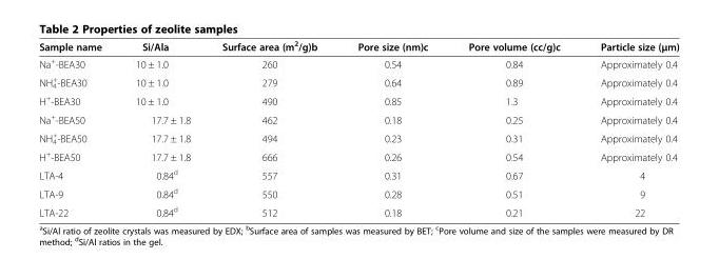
<table><thead><tr><td>Sample name</td><td>Si/Ala</td><td>Surface area (m<sup>2</sup>/g)b</td><td>Pore size (nm)с</td><td>Pore volume (cc/g)c</td><td>Particle size (μm)</td></tr></thead><tbody><tr><td>Na<sup>+</sup>-BEA30</td><td>10 ± 1.0</td><td>260</td><td>0.54</td><td>0.84</td><td>Approximately 0.4</td></tr><tr><td>NH<sub>4</sub> <sup>+</sup>-BEA30</td><td>10 ± 1.0</td><td>279</td><td>0.64</td><td>0.89</td><td>Approximately 0.4</td></tr><tr><td>H<sup>+</sup>-BEA30</td><td>10 ± 1.0</td><td>490</td><td>0.85</td><td>1.3</td><td>Approximately 0.4</td></tr><tr><td>Na<sup>+</sup>-BEA50</td><td>17.7 ± 1.8</td><td>462</td><td>0.18</td><td>0.25</td><td>Approximately 0.4</td></tr><tr><td>NH<sub>4</sub> <sup>+</sup>-BEA50</td><td>17.7 ± 1.8</td><td>494</td><td>0.23</td><td>0.31</td><td>Approximately 0.4</td></tr><tr><td>H<sup>+</sup>-BEA50</td><td>17.7 ± 1.8</td><td>666</td><td>0.26</td><td>0.54</td><td>Approximately 0.4</td></tr><tr><td>LTA-4</td><td>0.84<sup>d</sup></td><td>557</td><td>0.31</td><td>0.67</td><td>4</td></tr><tr><td>LTA-9</td><td>0.84<sup>d</sup></td><td>550</td><td>0.28</td><td>0.51</td><td>9</td></tr><tr><td>LTA-22</td><td>0.84<sup>d</sup></td><td>512</td><td>0.18</td><td>0.21</td><td>22</td></tr></tbody></table>